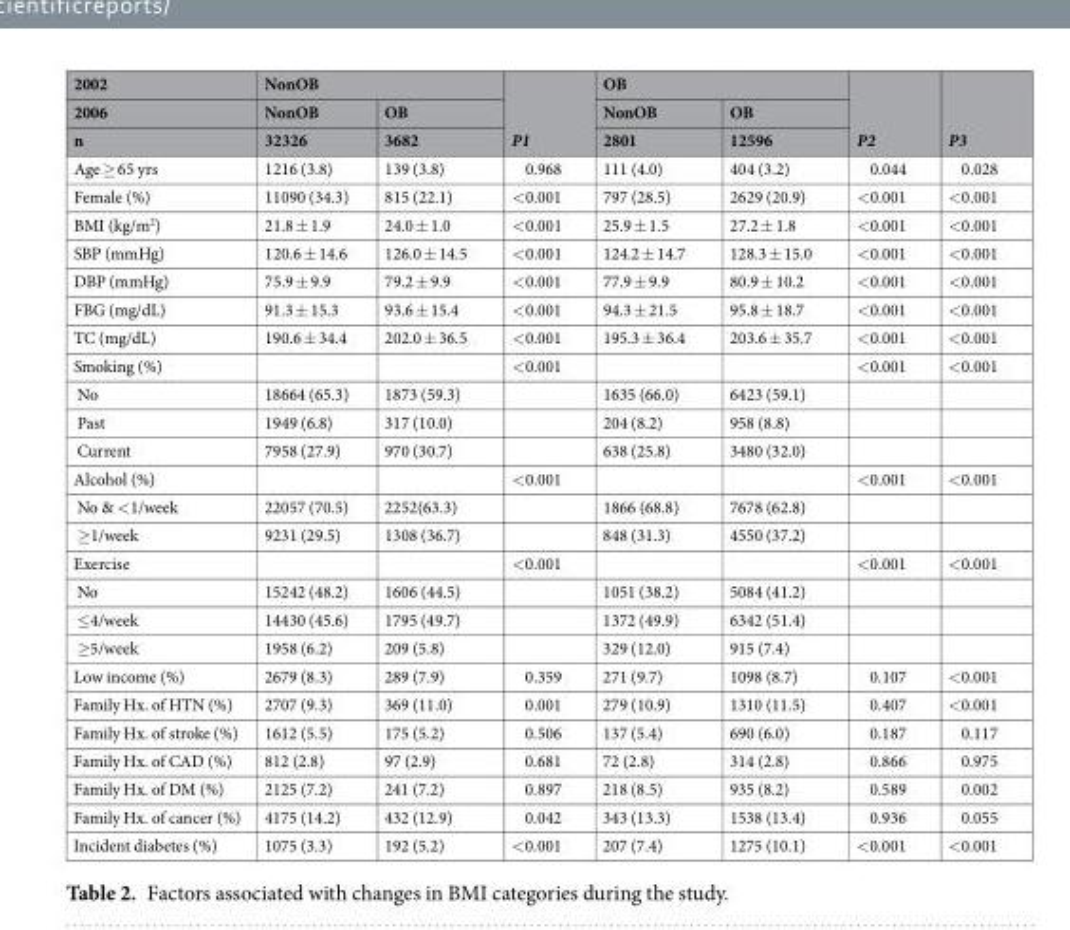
<table><thead><tr><td rowspan="3">2002 2006 n</td><td colspan="2">NonOB</td><td rowspan="3">P1</td><td colspan="2">OB</td><td rowspan="3">P2</td><td rowspan="3">P3</td></tr><tr><td rowspan="2">NonOB 32326</td><td rowspan="2">OB 3682</td><td rowspan="2">NonOB 2801</td><td rowspan="2">OB 12596</td></tr><tr></tr></thead><tbody><tr><td>Age ≥ 65 yrs</td><td>1216 (3.8)</td><td>139 (3.8)</td><td>0.968</td><td>111 (4.0)</td><td>404 (3.2)</td><td>0.044</td><td>0.028</td></tr><tr><td>Female (%)</td><td>11090 (34.3)</td><td>815 (22.1)</td><td>&lt;0.001</td><td>797 (28.5)</td><td>2629 (20.9)</td><td>&lt;0.001</td><td>&lt;0.001</td></tr><tr><td>BMI (kg/m<sup>2</sup>)</td><td>21.8 ± 1.9</td><td>24.0 ± 1.0</td><td>&lt;0.001</td><td>25.9 ± 1.5</td><td>27.2 ± 1.8</td><td>&lt;0.001</td><td>&lt;0.001</td></tr><tr><td>SBP (mmHg)</td><td>120.6 ± 14.6</td><td>126.0 ± 14.5</td><td>&lt;0.001</td><td>124.2 ± 14.7</td><td>128.3 ± 15.0</td><td>&lt;0.001</td><td>&lt;0.001</td></tr><tr><td>DBP (mmHg)</td><td>75.9 ± 9.9</td><td>79.2 ± 9.9</td><td>&lt;0.001</td><td>77.9 ± 9.9</td><td>80.9 ± 10.2</td><td>&lt;0.001</td><td>&lt;0.001</td></tr><tr><td>FBG (mg/dL)</td><td>91.3 ± 15.3</td><td>93.6 ± 15.4</td><td>&lt;0.001</td><td>94.3 ± 21.5</td><td>95.8 ± 18.7</td><td>&lt;0.001</td><td>&lt;0.001</td></tr><tr><td>TC (mg/dL)</td><td>190.6 ± 34.4</td><td>202.0 ± 36.5</td><td>&lt;0.001</td><td>195.3 ± 36.4</td><td>203.6 ± 35.7</td><td>&lt;0.001</td><td>&lt;0.001</td></tr><tr><td>Smoking (%)</td><td></td><td></td><td>&lt;0.001</td><td></td><td></td><td>&lt;0.001</td><td>&lt;0.001</td></tr><tr><td>No</td><td>18664 (65.3)</td><td>1873 (59.3)</td><td></td><td>1635 (66.0)</td><td>6423 (59.1)</td><td></td><td></td></tr><tr><td>Past</td><td>1949 (6.8)</td><td>317 (10.0)</td><td></td><td>204 (8.2)</td><td>958 (8.8)</td><td></td><td></td></tr><tr><td>Current</td><td>7958 (27.9)</td><td>970 (30.7)</td><td></td><td>638 (25.8)</td><td>3480 (32.0)</td><td></td><td></td></tr><tr><td>Alcohol (%)</td><td></td><td></td><td>&lt;0.001</td><td></td><td></td><td>&lt;0.001</td><td>&lt;0.001</td></tr><tr><td>No &amp; &lt;1/week</td><td>22057 (70.5)</td><td>2252(63.3)</td><td></td><td>1866 (68.8)</td><td>7678 (62.8)</td><td></td><td></td></tr><tr><td>≥1/week</td><td>9231 (29.5)</td><td>1308 (36.7)</td><td></td><td>848 (31.3)</td><td>4550 (37.2)</td><td></td><td></td></tr><tr><td>Exercise</td><td></td><td></td><td>&lt;0.001</td><td></td><td></td><td>&lt;0.001</td><td>&lt;0.001</td></tr><tr><td>No</td><td>15242 (48.2)</td><td>1606 (44.5)</td><td></td><td>1051 (38.2)</td><td>5084 (41.2)</td><td></td><td></td></tr><tr><td>≤4/week</td><td>14430 (45.6)</td><td>1795 (49.7)</td><td></td><td>1372 (49.9)</td><td>6342 (51.4)</td><td></td><td></td></tr><tr><td>≥5/week</td><td>1958 (6.2)</td><td>209 (5.8)</td><td></td><td>329 (12.0)</td><td>915 (7.4)</td><td></td><td></td></tr><tr><td>Low income (%)</td><td>2679 (8.3)</td><td>289 (7.9)</td><td>0.359</td><td>271 (9.7)</td><td>1098 (8.7)</td><td>0.107</td><td>&lt;0.001</td></tr><tr><td>Family Hx. of HTN (%)</td><td>2707 (9.3)</td><td>369 (11.0)</td><td>0.001</td><td>279 (10.9)</td><td>1310 (11.5)</td><td>0.407</td><td>&lt;0.001</td></tr><tr><td>Family Hx. of stroke (%)</td><td>1612 (5.5)</td><td>175 (5.2)</td><td>0.506</td><td>137 (5.4)</td><td>690 (6.0)</td><td>0.187</td><td>0.117</td></tr><tr><td>Family Hx. of CAD (%)</td><td>812 (2.8)</td><td>97 (2.9)</td><td>0.681</td><td>72 (2.8)</td><td>314 (2.8)</td><td>0.866</td><td>0.975</td></tr><tr><td>Family Hx. of DM (%)</td><td>2125 (7.2)</td><td>241 (7.2)</td><td>0.897</td><td>218 (8.5)</td><td>935 (8.2)</td><td>0.589</td><td>0.002</td></tr><tr><td>Family Hx. of cancer (%)</td><td>4175 (14.2)</td><td>432 (12.9)</td><td>0.042</td><td>343 (13.3)</td><td>1538 (13.4)</td><td>0.936</td><td>0.055</td></tr><tr><td>Incident diabetes (%)</td><td>1075 (3.3)</td><td>192 (5.2)</td><td>&lt;0.001</td><td>207 (7.4)</td><td>1275 (10.1)</td><td>&lt;0.001</td><td>&lt;0.001</td></tr></tbody></table>